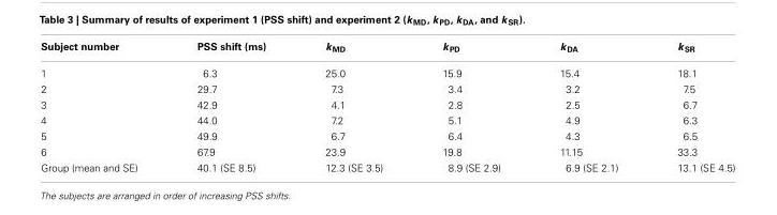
<table><thead><tr><td>Subject number</td><td>PSS shift (ms)</td><td>k <sub>MD</sub></td><td>k <sub>PD</sub></td><td>k <sub>DA</sub></td><td>k <sub>SR</sub></td></tr></thead><tbody><tr><td>1</td><td>6.3</td><td>25.0</td><td>15.9</td><td>15.4</td><td>18.1</td></tr><tr><td>2</td><td>29.7</td><td>7.3</td><td>3.4</td><td>3.2</td><td>7.5</td></tr><tr><td>3</td><td>42.9</td><td>4.1</td><td>2.8</td><td>2.5</td><td>6.7</td></tr><tr><td>4</td><td>44.0</td><td>7.2</td><td>5.1</td><td>4.9</td><td>6.3</td></tr><tr><td>5</td><td>49.9</td><td>6.7</td><td>6.4</td><td>4.3</td><td>6.5</td></tr><tr><td>6</td><td>67.9</td><td>23.9</td><td>19.8</td><td>11.15</td><td>33.3</td></tr><tr><td>Group (mean and SE)</td><td>40.1 (SE 8.5)</td><td>12.3 (SE 3.5)</td><td>8.9 (SE 2.9)</td><td>6.9 (SE 2.1)</td><td>13.1 (SE 4.5)</td></tr></tbody></table>